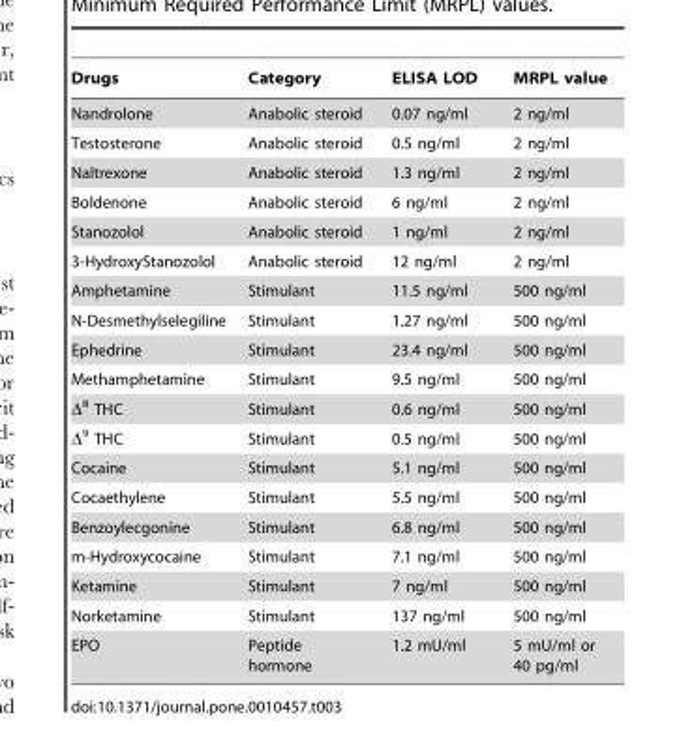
<table><thead><tr><td>Drugs</td><td>Category</td><td>ELISA LOD</td><td>MRPL value</td></tr></thead><tbody><tr><td>Nandrolone</td><td>Anabolic steroid</td><td>0.07 ng/ml</td><td>2 ng/ml</td></tr><tr><td>Testosterone</td><td>Anabolic steroid</td><td>0.5 ng/ml</td><td>2 ng/ml</td></tr><tr><td>Naltrexone</td><td>Anabolic steroid</td><td>1.3 ng/ml</td><td>2 ng/ml</td></tr><tr><td>Boldenone</td><td>Anabolic steroid</td><td>6 ng/ml</td><td>2 ng/ml</td></tr><tr><td>Stanozolol</td><td>Anabolic steroid</td><td>1 ng/ml</td><td>2 ng/ml</td></tr><tr><td>3-HydroxyStanozolol</td><td>Anabolic steroid</td><td>12 ng/ml</td><td>2 ng/ml</td></tr><tr><td>Amphetamine</td><td>Stimulant</td><td>11.5 ng/ml</td><td>500 ng/ml</td></tr><tr><td>N-Desmethylselegiline</td><td>Stimulant</td><td>1.27 ng/ml</td><td>500 ng/ml</td></tr><tr><td>Ephedrine</td><td>Stimulant</td><td>23.4 ng/ml</td><td>500 ng/ml</td></tr><tr><td>Methamphetamine</td><td>Stimulant</td><td>9.5 ng/ml</td><td>500 ng/ml</td></tr><tr><td>Δ<sup>8</sup> THC</td><td>Stimulant</td><td>0.6 ng/ml</td><td>500 ng/ml</td></tr><tr><td>Δ<sup>9</sup> THC</td><td>Stimulant</td><td>0.5 ng/ml</td><td>500 ng/ml</td></tr><tr><td>Cocaine</td><td>Stimulant</td><td>5.1 ng/ml</td><td>500 ng/ml</td></tr><tr><td>Cocaethylene</td><td>Stimulant</td><td>5.5 ng/ml</td><td>500 ng/ml</td></tr><tr><td>Benzoylecgonine</td><td>Stimulant</td><td>6.8 ng/ml</td><td>500 ng/ml</td></tr><tr><td>m-Hydroxycocaine</td><td>Stimulant</td><td>7.1 ng/ml</td><td>500 ng/ml</td></tr><tr><td>Ketamine</td><td>Stimulant</td><td>7 ng/ml</td><td>500 ng/ml</td></tr><tr><td>Norketamine</td><td>Stimulant</td><td>137 ng/ml</td><td>500 ng/ml</td></tr><tr><td>EPO</td><td>Peptide hormone</td><td>1.2 mU/ml</td><td>5 mU/ml or 40 pg/ml</td></tr></tbody></table>